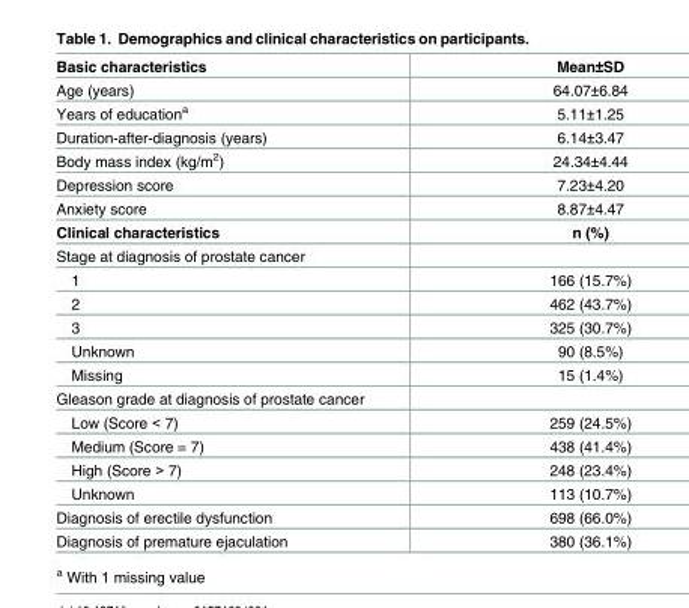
<table><tbody><tr><td>Basic characteristics</td><td>Mean±SD</td></tr><tr><td>Age (years)</td><td>64.07±6.84</td></tr><tr><td>Years of education<sup>a</sup></td><td>5.11±1.25</td></tr><tr><td>Duration-after-diagnosis (years)</td><td>6.14±3.47</td></tr><tr><td>Body mass index (kg/m<sup>2</sup>)</td><td>24.34±4.44</td></tr><tr><td>Depression score</td><td>7.23±4.20</td></tr><tr><td>Anxiety score</td><td>8.87±4.47</td></tr><tr><td>Clinical characteristics</td><td>n (%)</td></tr><tr><td colspan="2">Stage at diagnosis of prostate cancer</td></tr><tr><td>1</td><td>166 (15.7%)</td></tr><tr><td>2</td><td>462 (43.7%)</td></tr><tr><td>3</td><td>325 (30.7%)</td></tr><tr><td>Unknown</td><td>90 (8.5%)</td></tr><tr><td>Missing</td><td>15 (1.4%)</td></tr><tr><td colspan="2">Gleason grade at diagnosis of prostate cancer</td></tr><tr><td>Low (Score &lt; 7)</td><td>259 (24.5%)</td></tr><tr><td>Medium (Score = 7)</td><td>438 (41.4%)</td></tr><tr><td>High (Score &gt; 7)</td><td>248 (23.4%)</td></tr><tr><td>Unknown</td><td>113 (10.7%)</td></tr><tr><td>Diagnosis of erectile dysfunction</td><td>698 (66.0%)</td></tr><tr><td>Diagnosis of premature ejaculation</td><td>380 (36.1%)</td></tr></tbody></table>